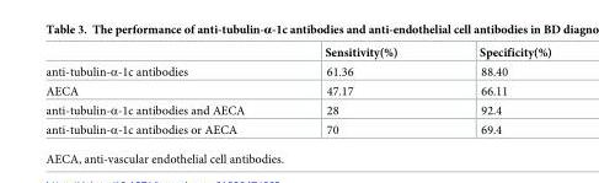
<table><thead><tr><td></td><td>Sensitivity(%)</td><td>Specificity(%)</td></tr></thead><tbody><tr><td>anti-tubulin-α-1c antibodies</td><td>61.36</td><td>88.40</td></tr><tr><td>AECA</td><td>47.17</td><td>66.11</td></tr><tr><td>anti-tubulin-α-1c antibodies and AECA</td><td>28</td><td>92.4</td></tr><tr><td>anti-tubulin-α-1c antibodies or AECA</td><td>70</td><td>69.4</td></tr></tbody></table>